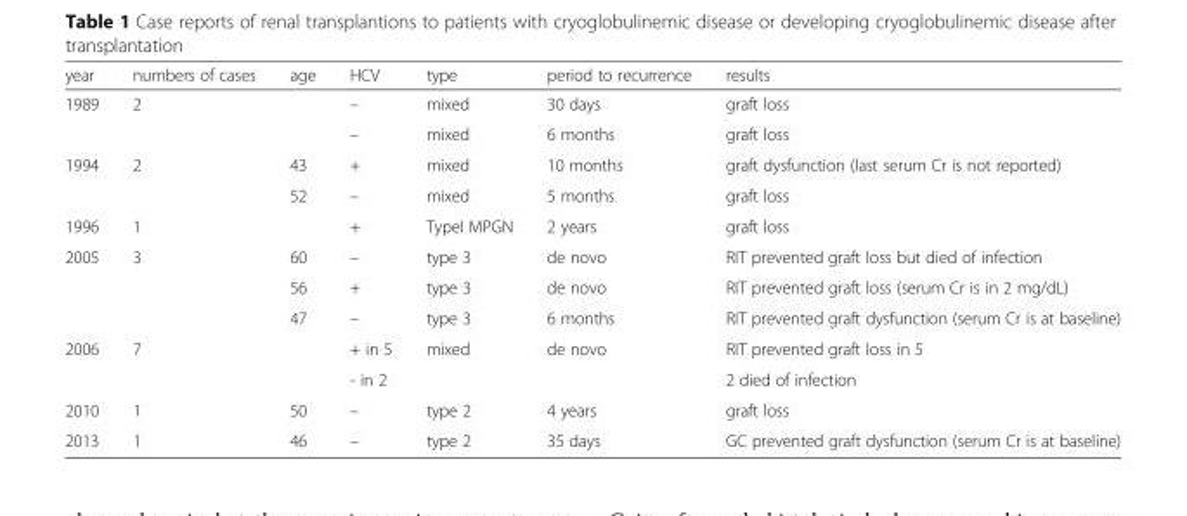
<table><thead><tr><td>year</td><td>numbers of cases</td><td>age</td><td>HCV</td><td>type</td><td>period to recurrence</td><td>results</td></tr></thead><tbody><tr><td rowspan="2">1989</td><td rowspan="2">2</td><td rowspan="2"></td><td>–</td><td>mixed</td><td>30 days</td><td>graft loss</td></tr><tr><td>–</td><td>mixed</td><td>6 months</td><td>graft loss</td></tr><tr><td rowspan="2">1994</td><td rowspan="2">2</td><td>43</td><td>+</td><td>mixed</td><td>10 months</td><td>graft dysfunction (last serum Cr is not reported)</td></tr><tr><td>52</td><td>–</td><td>mixed</td><td>5 months</td><td>graft loss</td></tr><tr><td>1996</td><td>1</td><td></td><td>+</td><td>TypeI MPGN</td><td>2 years</td><td>graft loss</td></tr><tr><td rowspan="3">2005</td><td rowspan="3">3</td><td>60</td><td>–</td><td>type 3</td><td>de novo</td><td>RIT prevented graft loss but died of infection</td></tr><tr><td>56</td><td>+</td><td>type 3</td><td>de novo</td><td>RIT prevented graft loss (serum Cr is in 2 mg/dL)</td></tr><tr><td>47</td><td>–</td><td>type 3</td><td>6 months</td><td>RIT prevented graft dysfunction (serum Cr is at baseline)</td></tr><tr><td rowspan="2">2006</td><td rowspan="2">7</td><td rowspan="2"></td><td>+ in 5</td><td rowspan="2">mixed</td><td rowspan="2">de novo</td><td>RIT prevented graft loss in 5</td></tr><tr><td>- in 2</td><td>2 died of infection</td></tr><tr><td>2010</td><td>1</td><td>50</td><td>–</td><td>type 2</td><td>4 years</td><td>graft loss</td></tr><tr><td>2013</td><td>1</td><td>46</td><td>–</td><td>type 2</td><td>35 days</td><td>GC prevented graft dysfunction (serum Cr is at baseline)</td></tr></tbody></table>